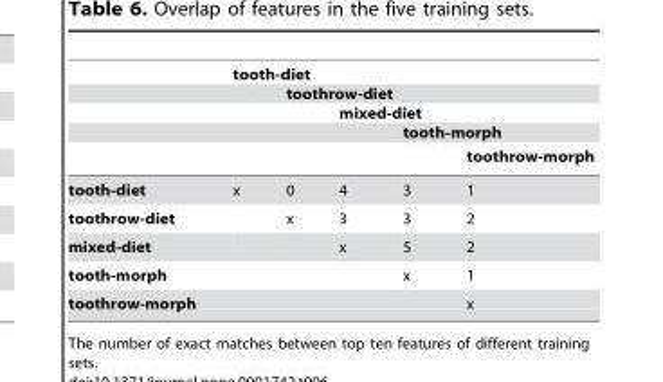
<table><thead><tr><td rowspan="5"></td><td colspan="5">tooth-diet</td></tr><tr><td rowspan="4"></td><td colspan="4">toothrow-diet</td></tr><tr><td rowspan="3"></td><td colspan="3">mixed-diet</td></tr><tr><td rowspan="2"></td><td colspan="2">tooth-morph</td></tr><tr><td></td><td>toothrow-morph</td></tr></thead><tbody><tr><td>tooth-diet</td><td>x</td><td>0</td><td>4</td><td>3</td><td>1</td></tr><tr><td>toothrow-diet</td><td></td><td>x</td><td>3</td><td>3</td><td>2</td></tr><tr><td>mixed-diet</td><td></td><td></td><td>x</td><td>5</td><td>2</td></tr><tr><td>tooth-morph</td><td></td><td></td><td></td><td>x</td><td>1</td></tr><tr><td>toothrow-morph</td><td></td><td></td><td></td><td></td><td>x</td></tr></tbody></table>